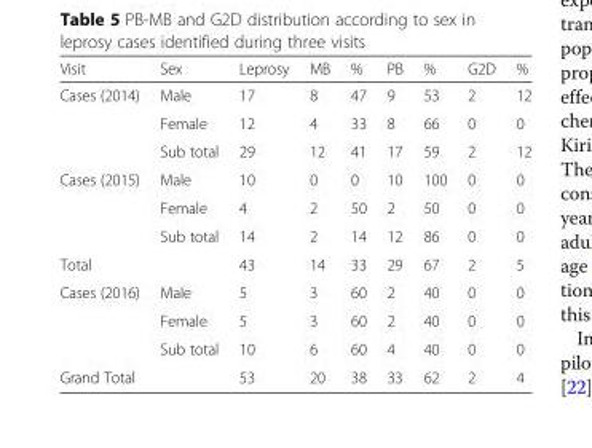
<table><thead><tr><td>Visit</td><td>Sex</td><td>Leprosy</td><td>MB</td><td>%</td><td>PB</td><td>%</td><td>G2D</td><td>%</td></tr></thead><tbody><tr><td rowspan="3">Cases (2014)</td><td>Male</td><td>17</td><td>8</td><td>47</td><td>9</td><td>53</td><td>2</td><td>12</td></tr><tr><td>Female</td><td>12</td><td>4</td><td>33</td><td>8</td><td>66</td><td>0</td><td>0</td></tr><tr><td>Sub total</td><td>29</td><td>12</td><td>41</td><td>17</td><td>59</td><td>2</td><td>12</td></tr><tr><td rowspan="3">Cases (2015)</td><td>Male</td><td>10</td><td>0</td><td>0</td><td>10</td><td>100</td><td>0</td><td>0</td></tr><tr><td>Female</td><td>4</td><td>2</td><td>50</td><td>2</td><td>50</td><td>0</td><td>0</td></tr><tr><td>Sub total</td><td>14</td><td>2</td><td>14</td><td>12</td><td>86</td><td>0</td><td>0</td></tr><tr><td colspan="2">Total</td><td>43</td><td>14</td><td>33</td><td>29</td><td>67</td><td>2</td><td>5</td></tr><tr><td rowspan="3">Cases (2016)</td><td>Male</td><td>5</td><td>3</td><td>60</td><td>2</td><td>40</td><td>0</td><td>0</td></tr><tr><td>Female</td><td>5</td><td>3</td><td>60</td><td>2</td><td>40</td><td>0</td><td>0</td></tr><tr><td>Sub total</td><td>10</td><td>6</td><td>60</td><td>4</td><td>40</td><td>0</td><td>0</td></tr><tr><td colspan="2">Grand Total</td><td>53</td><td>20</td><td>38</td><td>33</td><td>62</td><td>2</td><td>4</td></tr></tbody></table>